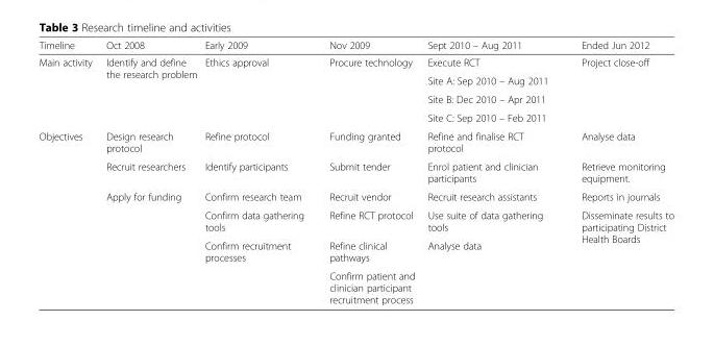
<table><thead><tr><td>Timeline</td><td>Oct 2008</td><td>Early 2009</td><td>Nov 2009</td><td>Sept 2010 – Aug 2011</td><td>Ended Jun 2012</td></tr></thead><tbody><tr><td rowspan="4">Main activity</td><td rowspan="4">Identify and define the research problem</td><td rowspan="4">Ethics approval</td><td rowspan="4">Procure technology</td><td>Execute RCT</td><td rowspan="4">Project close-off</td></tr><tr><td>Site A: Sep 2010 – Aug 2011</td></tr><tr><td>Site B: Dec 2010 – Apr 2011</td></tr><tr><td>Site C: Sep 2010 – Feb 2011</td></tr><tr><td rowspan="6">Objectives</td><td>Design research protocol</td><td>Refine protocol</td><td>Funding granted</td><td>Refine and finalise RCT protocol</td><td>Analyse data</td></tr><tr><td>Recruit researchers</td><td>Identify participants</td><td>Submit tender</td><td>Enrol patient and clinician participants</td><td>Retrieve monitoring equipment.</td></tr><tr><td rowspan="4">Apply for funding</td><td>Confirm research team</td><td>Recruit vendor</td><td>Recruit research assistants</td><td>Reports in journals</td></tr><tr><td>Confirm data gathering tools</td><td>Refine RCT protocol</td><td>Use suite of data gathering tools</td><td rowspan="3">Disseminate results to participating District Health Boards</td></tr><tr><td rowspan="2">Confirm recruitment processes</td><td>Refine clinical pathways</td><td rowspan="2">Analyse data</td></tr><tr><td>Confirm patient and clinician participant recruitment process</td></tr></tbody></table>